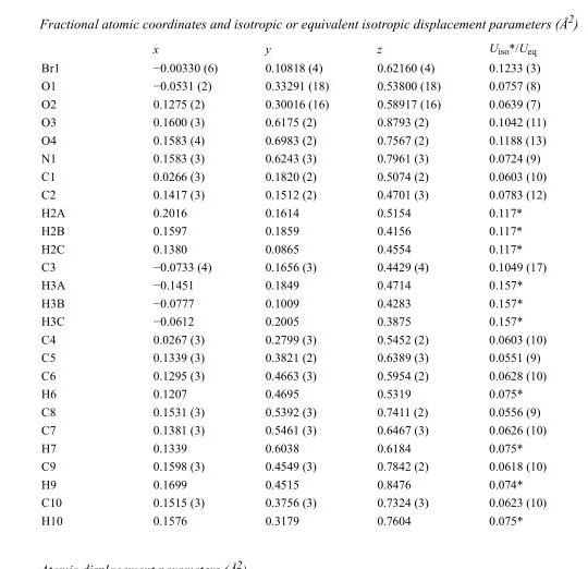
<table><thead><tr><td></td><td>x</td><td>y</td><td>z</td><td>U<sub>iso</sub>*/U<sub>eq</sub></td></tr></thead><tbody><tr><td>Br1</td><td>−0.00330 (6)</td><td>0.10818 (4)</td><td>0.62160 (4)</td><td>0.1233 (3)</td></tr><tr><td>O1</td><td>−0.0531 (2)</td><td>0.33291 (18)</td><td>0.53800 (18)</td><td>0.0757 (8)</td></tr><tr><td>O2</td><td>0.1275 (2)</td><td>0.30016 (16)</td><td>0.58917 (16)</td><td>0.0639 (7)</td></tr><tr><td>O3</td><td>0.1600 (3)</td><td>0.6175 (2)</td><td>0.8793 (2)</td><td>0.1042 (11)</td></tr><tr><td>O4</td><td>0.1583 (4)</td><td>0.6983 (2)</td><td>0.7567 (2)</td><td>0.1188 (13)</td></tr><tr><td>N1</td><td>0.1583 (3)</td><td>0.6243 (3)</td><td>0.7961 (3)</td><td>0.0724 (9)</td></tr><tr><td>C1</td><td>0.0266 (3)</td><td>0.1820 (2)</td><td>0.5074 (2)</td><td>0.0603 (10)</td></tr><tr><td>C2</td><td>0.1417 (3)</td><td>0.1512 (2)</td><td>0.4701 (3)</td><td>0.0783 (12)</td></tr><tr><td>H2A</td><td>0.2016</td><td>0.1614</td><td>0.5154</td><td>0.117*</td></tr><tr><td>H2B</td><td>0.1597</td><td>0.1859</td><td>0.4156</td><td>0.117*</td></tr><tr><td>H2C</td><td>0.1380</td><td>0.0865</td><td>0.4554</td><td>0.117*</td></tr><tr><td>C3</td><td>−0.0733 (4)</td><td>0.1656 (3)</td><td>0.4429 (4)</td><td>0.1049 (17)</td></tr><tr><td>H3A</td><td>−0.1451</td><td>0.1849</td><td>0.4714</td><td>0.157*</td></tr><tr><td>H3B</td><td>−0.0777</td><td>0.1009</td><td>0.4283</td><td>0.157*</td></tr><tr><td>H3C</td><td>−0.0612</td><td>0.2005</td><td>0.3875</td><td>0.157*</td></tr><tr><td>C4</td><td>0.0267 (3)</td><td>0.2799 (3)</td><td>0.5452 (2)</td><td>0.0603 (10)</td></tr><tr><td>C5</td><td>0.1339 (3)</td><td>0.3821 (2)</td><td>0.6389 (3)</td><td>0.0551 (9)</td></tr><tr><td>C6</td><td>0.1295 (3)</td><td>0.4663 (3)</td><td>0.5954 (2)</td><td>0.0628 (10)</td></tr><tr><td>H6</td><td>0.1207</td><td>0.4695</td><td>0.5319</td><td>0.075*</td></tr><tr><td>C8</td><td>0.1531 (3)</td><td>0.5392 (3)</td><td>0.7411 (2)</td><td>0.0556 (9)</td></tr><tr><td>C7</td><td>0.1381 (3)</td><td>0.5461 (3)</td><td>0.6467 (3)</td><td>0.0626 (10)</td></tr><tr><td>H7</td><td>0.1339</td><td>0.6038</td><td>0.6184</td><td>0.075*</td></tr><tr><td>C9</td><td>0.1598 (3)</td><td>0.4549 (3)</td><td>0.7842 (2)</td><td>0.0618 (10)</td></tr><tr><td>H9</td><td>0.1699</td><td>0.4515</td><td>0.8476</td><td>0.074*</td></tr><tr><td>C10</td><td>0.1515 (3)</td><td>0.3756 (3)</td><td>0.7324 (3)</td><td>0.0623 (10)</td></tr><tr><td>H10</td><td>0.1576</td><td>0.3179</td><td>0.7604</td><td>0.075*</td></tr></tbody></table>